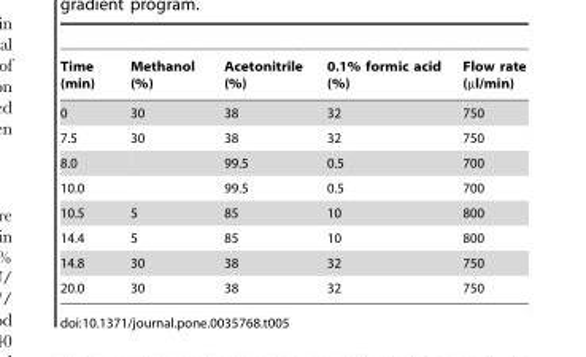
<table><thead><tr><td>Time (min)</td><td>Methanol (%)</td><td>Acetonitrile (%)</td><td>0.1% formic acid (%)</td><td>Flow rate (µl/min)</td></tr></thead><tbody><tr><td>0</td><td>30</td><td>38</td><td>32</td><td>750</td></tr><tr><td>7.5</td><td>30</td><td>38</td><td>32</td><td>750</td></tr><tr><td>8.0</td><td></td><td>99.5</td><td>0.5</td><td>700</td></tr><tr><td>10.0</td><td></td><td>99.5</td><td>0.5</td><td>700</td></tr><tr><td>10.5</td><td>5</td><td>85</td><td>10</td><td>800</td></tr><tr><td>14.4</td><td>5</td><td>85</td><td>10</td><td>800</td></tr><tr><td>14.8</td><td>30</td><td>38</td><td>32</td><td>750</td></tr><tr><td>20.0</td><td>30</td><td>38</td><td>32</td><td>750</td></tr></tbody></table>